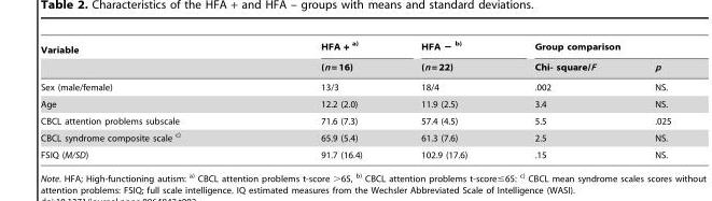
<table><thead><tr><td rowspan="2">Variable</td><td rowspan="2">HFA + <sup>a)</sup> (n = 16)</td><td rowspan="2">HFA − <sup>b)</sup> (n = 22)</td><td colspan="2">Group comparison</td></tr><tr><td>Chi- square/F</td><td>p</td></tr></thead><tbody><tr><td>Sex (male/female)</td><td>13/3</td><td>18/4</td><td>.002</td><td>NS.</td></tr><tr><td>Age</td><td>12.2 (2.0)</td><td>11.9 (2.5)</td><td>3.4</td><td>NS.</td></tr><tr><td>CBCL attention problems subscale</td><td>71.6 (7.3)</td><td>57.4 (4.5)</td><td>5.5</td><td>.025</td></tr><tr><td>CBCL syndrome composite scale <sup>c)</sup></td><td>65.9 (5.4)</td><td>61.3 (7.6)</td><td>2.5</td><td>NS.</td></tr><tr><td>FSIQ (M/SD)</td><td>91.7 (16.4)</td><td>102.9 (17.6)</td><td>.15</td><td>NS.</td></tr></tbody></table>